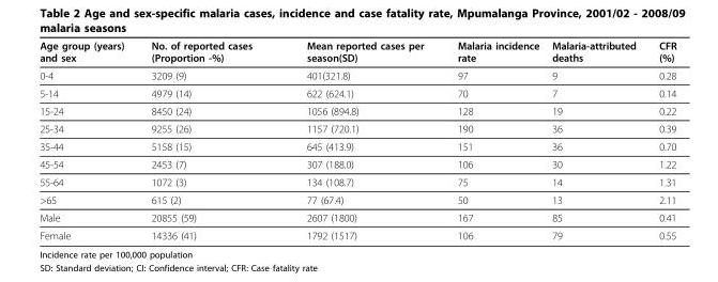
<table><thead><tr><td>Age group (years) and sex</td><td>No. of reported cases (Proportion -%)</td><td>Mean reported cases per season(SD)</td><td>Malaria incidence rate</td><td>Malaria-attributed deaths</td><td>CFR (%)</td></tr></thead><tbody><tr><td>0-4</td><td>3209 (9)</td><td>401(321.8)</td><td>97</td><td>9</td><td>0.28</td></tr><tr><td>5-14</td><td>4979 (14)</td><td>622 (624.1)</td><td>70</td><td>7</td><td>0.14</td></tr><tr><td>15-24</td><td>8450 (24)</td><td>1056 (894.8)</td><td>128</td><td>19</td><td>0.22</td></tr><tr><td>25-34</td><td>9255 (26)</td><td>1157 (720.1)</td><td>190</td><td>36</td><td>0.39</td></tr><tr><td>35-44</td><td>5158 (15)</td><td>645 (413.9)</td><td>151</td><td>36</td><td>0.70</td></tr><tr><td>45-54</td><td>2453 (7)</td><td>307 (188.0)</td><td>106</td><td>30</td><td>1.22</td></tr><tr><td>55-64</td><td>1072 (3)</td><td>134 (108.7)</td><td>75</td><td>14</td><td>1.31</td></tr><tr><td>&gt;65</td><td>615 (2)</td><td>77 (67.4)</td><td>50</td><td>13</td><td>2.11</td></tr><tr><td>Male</td><td>20855 (59)</td><td>2607 (1800)</td><td>167</td><td>85</td><td>0.41</td></tr><tr><td>Female</td><td>14336 (41)</td><td>1792 (1517)</td><td>106</td><td>79</td><td>0.55</td></tr></tbody></table>